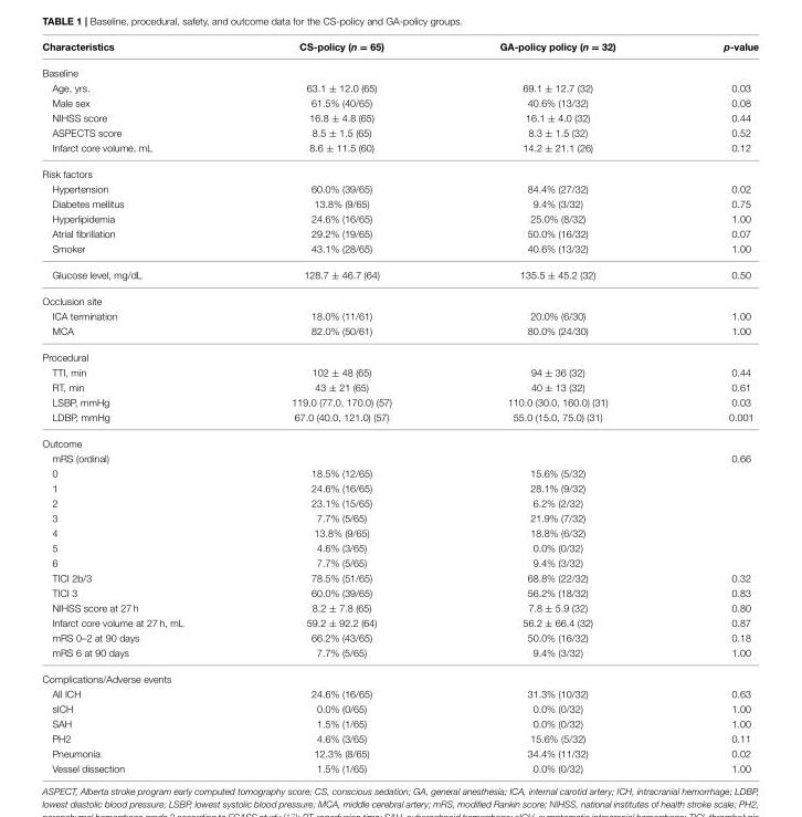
<table><thead><tr><td>Characteristics</td><td>CS-policy (n = 65)</td><td>GA-policy policy (n = 32)</td><td>p-value</td></tr></thead><tbody><tr><td colspan="4">Baseline</td></tr><tr><td>Age, yrs.</td><td>63.1 ± 12.0 (65)</td><td>69.1 ± 12.7 (32)</td><td>0.03</td></tr><tr><td>Male sex</td><td>61.5% (40/65)</td><td>40.6% (13/32)</td><td>0.08</td></tr><tr><td>NIHSS score</td><td>16.8 ± 4.8 (65)</td><td>16.1 ± 4.0 (32)</td><td>0.44</td></tr><tr><td>ASPECTS score</td><td>8.5 ± 1.5 (65)</td><td>8.3 ± 1.5 (32)</td><td>0.52</td></tr><tr><td>Infarct core volume, mL</td><td>8.6 ± 11.5 (60)</td><td>14.2 ± 21.1 (26)</td><td>0.12</td></tr><tr><td colspan="4">Risk factors</td></tr><tr><td>Hypertension</td><td>60.0% (39/65)</td><td>84.4% (27/32)</td><td>0.02</td></tr><tr><td>Diabetes mellitus</td><td>13.8% (9/65)</td><td>9.4% (3/32)</td><td>0.75</td></tr><tr><td>Hyperlipidemia</td><td>24.6% (16/65)</td><td>25.0% (8/32)</td><td>1.00</td></tr><tr><td>Atrial fibrillation</td><td>29.2% (19/65)</td><td>50.0% (16/32)</td><td>0.07</td></tr><tr><td>Smoker</td><td>43.1% (28/65)</td><td>40.6% (13/32)</td><td>1.00</td></tr><tr><td>Glucose level, mg/dL</td><td>128.7 ± 46.7 (64)</td><td>135.5 ± 45.2 (32)</td><td>0.50</td></tr><tr><td colspan="4">Occlusion site</td></tr><tr><td>ICA termination</td><td>18.0% (11/61)</td><td>20.0% (6/30)</td><td>1.00</td></tr><tr><td>MCA</td><td>82.0% (50/61)</td><td>80.0% (24/30)</td><td>1.00</td></tr><tr><td colspan="4">Procedural</td></tr><tr><td>TTI, min</td><td>102 ± 48 (65)</td><td>94 ± 36 (32)</td><td>0.44</td></tr><tr><td>RT, min</td><td>43 ± 21 (65)</td><td>40 ± 13 (32)</td><td>0.61</td></tr><tr><td>LSBP, mmHg</td><td>119.0 (77.0, 170.0) (57)</td><td>110.0 (30.0, 160.0) (31)</td><td>0.03</td></tr><tr><td>LDBP, mmHg</td><td>67.0 (40.0, 121.0) (57)</td><td>55.0 (15.0, 75.0) (31)</td><td>0.001</td></tr><tr><td colspan="4">Outcome</td></tr><tr><td>mRS (ordinal)</td><td></td><td></td><td>0.66</td></tr><tr><td>0</td><td>18.5% (12/65)</td><td>15.6% (5/32)</td><td></td></tr><tr><td>1</td><td>24.6% (16/65)</td><td>28.1% (9/32)</td><td></td></tr><tr><td>2</td><td>23.1% (15/65)</td><td>6.2% (2/32)</td><td></td></tr><tr><td>3</td><td>7.7% (5/65)</td><td>21.9% (7/32)</td><td></td></tr><tr><td>4</td><td>13.8% (9/65)</td><td>18.8% (6/32)</td><td></td></tr><tr><td>5</td><td>4.6% (3/65)</td><td>0.0% (0/32)</td><td></td></tr><tr><td>6</td><td>7.7% (5/65)</td><td>9.4% (3/32)</td><td></td></tr><tr><td>TICI 2b/3</td><td>78.5% (51/65)</td><td>68.8% (22/32)</td><td>0.32</td></tr><tr><td>TICI 3</td><td>60.0% (39/65)</td><td>56.2% (18/32)</td><td>0.83</td></tr><tr><td>NIHSS score at 27 h</td><td>8.2 ± 7.8 (65)</td><td>7.8 ± 5.9 (32)</td><td>0.80</td></tr><tr><td>Infarct core volume at 27 h, mL</td><td>59.2 ± 92.2 (64)</td><td>56.2 ± 66.4 (32)</td><td>0.87</td></tr><tr><td>mRS 0–2 at 90 days</td><td>66.2% (43/65)</td><td>50.0% (16/32)</td><td>0.18</td></tr><tr><td>mRS 6 at 90 days</td><td>7.7% (5/65)</td><td>9.4% (3/32)</td><td>1.00</td></tr><tr><td colspan="4">Complications/Adverse events</td></tr><tr><td>All ICH</td><td>24.6% (16/65)</td><td>31.3% (10/32)</td><td>0.63</td></tr><tr><td>sICH</td><td>0.0% (0/65)</td><td>0.0% (0/32)</td><td>1.00</td></tr><tr><td>SAH</td><td>1.5% (1/65)</td><td>0.0% (0/32)</td><td>1.00</td></tr><tr><td>PH2</td><td>4.6% (3/65)</td><td>15.6% (5/32)</td><td>0.11</td></tr><tr><td>Pneumonia</td><td>12.3% (8/65)</td><td>34.4% (11/32)</td><td>0.02</td></tr><tr><td>Vessel dissection</td><td>1.5% (1/65)</td><td>0.0% (0/32)</td><td>1.00</td></tr></tbody></table>